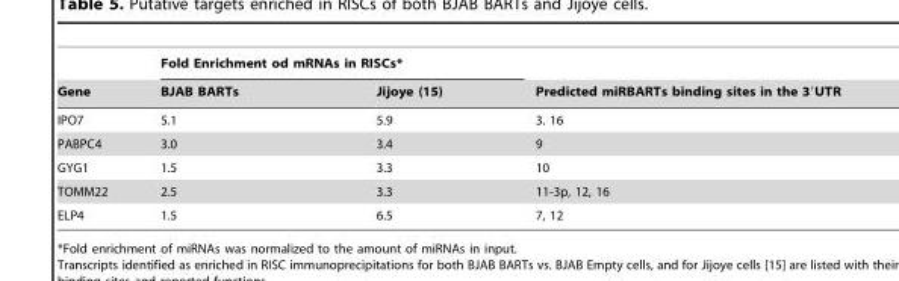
<table><thead><tr><td rowspan="2">Gene</td><td colspan="2">Fold Enrichment od mRNAs in RISCs*</td><td rowspan="2">Predicted miRBARTs binding sites in the 3′UTR</td></tr><tr><td>BJAB BARTs</td><td>Jijoye (15)</td></tr></thead><tbody><tr><td>IPO7</td><td>5.1</td><td>5.9</td><td>3. 16</td></tr><tr><td>PABPC4</td><td>3.0</td><td>3.4</td><td>9</td></tr><tr><td>GYG1</td><td>1.5</td><td>3.3</td><td>10</td></tr><tr><td>TOMM22</td><td>2.5</td><td>3.3</td><td>11-3p, 12, 16</td></tr><tr><td>ELP4</td><td>1.5</td><td>6.5</td><td>7, 12</td></tr></tbody></table>